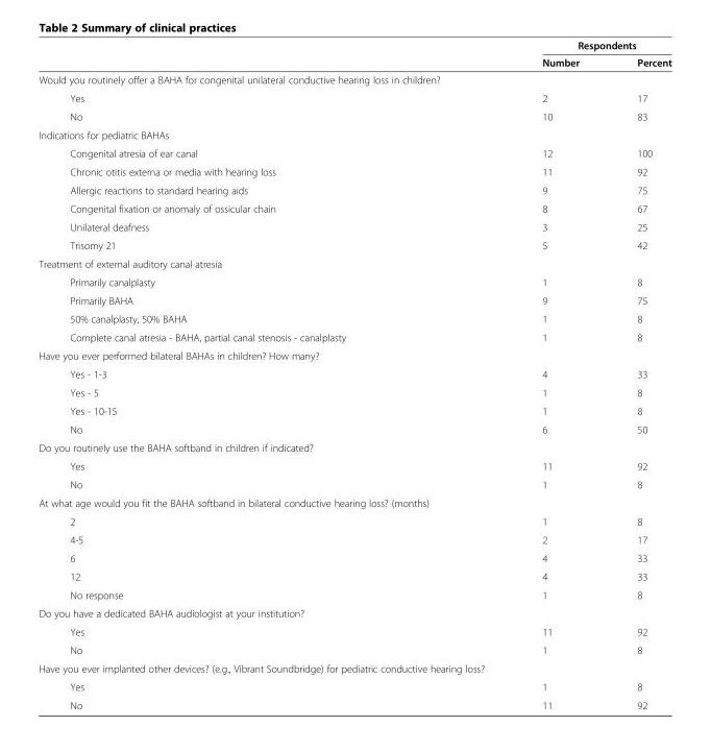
<table><thead><tr><td rowspan="2"></td><td rowspan="2">Respondents Number</td><td rowspan="2">Percent</td></tr><tr></tr></thead><tbody><tr><td colspan="3">Would you routinely offer a BAHA for congenital unilateral conductive hearing loss in children?</td></tr><tr><td>Yes</td><td>2</td><td>17</td></tr><tr><td>No</td><td>10</td><td>83</td></tr><tr><td colspan="3">Indications for pediatric BAHAs</td></tr><tr><td>Congenital atresia of ear canal</td><td>12</td><td>100</td></tr><tr><td>Chronic otitis externa or media with hearing loss</td><td>11</td><td>92</td></tr><tr><td>Allergic reactions to standard hearing aids</td><td>9</td><td>75</td></tr><tr><td>Congenital fixation or anomaly of ossicular chain</td><td>8</td><td>67</td></tr><tr><td>Unilateral deafness</td><td>3</td><td>25</td></tr><tr><td>Trisomy 21</td><td>5</td><td>42</td></tr><tr><td colspan="3">Treatment of external auditory canal atresia</td></tr><tr><td>Primarily canalplasty</td><td>1</td><td>8</td></tr><tr><td>Primarily BAHA</td><td>9</td><td>75</td></tr><tr><td>50% canalplasty, 50% BAHA</td><td>1</td><td>8</td></tr><tr><td>Complete canal atresia - BAHA, partial canal stenosis - canalplasty</td><td>1</td><td>8</td></tr><tr><td colspan="3">Have you ever performed bilateral BAHAs in children? How many?</td></tr><tr><td>Yes - 1-3</td><td>4</td><td>33</td></tr><tr><td>Yes - 5</td><td>1</td><td>8</td></tr><tr><td>Yes - 10-15</td><td>1</td><td>8</td></tr><tr><td>No</td><td>6</td><td>50</td></tr><tr><td colspan="3">Do you routinely use the BAHA softband in children if indicated?</td></tr><tr><td>Yes</td><td>11</td><td>92</td></tr><tr><td>No</td><td>1</td><td>8</td></tr><tr><td colspan="3">At what age would you fit the BAHA softband in bilateral conductive hearing loss? (months)</td></tr><tr><td>2</td><td>1</td><td>8</td></tr><tr><td>4-5</td><td>2</td><td>17</td></tr><tr><td>6</td><td>4</td><td>33</td></tr><tr><td>12</td><td>4</td><td>33</td></tr><tr><td>No response</td><td>1</td><td>8</td></tr><tr><td colspan="3">Do you have a dedicated BAHA audiologist at your institution?</td></tr><tr><td>Yes</td><td>11</td><td>92</td></tr><tr><td>No</td><td>1</td><td>8</td></tr><tr><td colspan="3">Have you ever implanted other devices? (e.g., Vibrant Soundbridge) for pediatric conductive hearing loss?</td></tr><tr><td>Yes</td><td>1</td><td>8</td></tr><tr><td>No</td><td>11</td><td>92</td></tr></tbody></table>